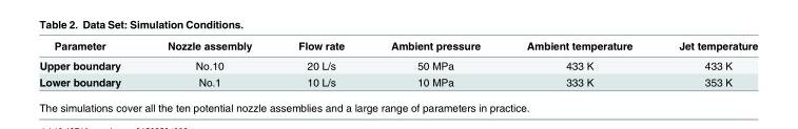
<table><thead><tr><td>Parameter</td><td>Nozzle assembly</td><td>Flow rate</td><td>Ambient pressure</td><td>Ambient temperature</td><td>Jet temperature</td></tr></thead><tbody><tr><td>Upper boundary</td><td>No.10</td><td>20 L/s</td><td>50 MPa</td><td>433 K</td><td>433 K</td></tr><tr><td>Lower boundary</td><td>No.1</td><td>10 L/s</td><td>10 MPa</td><td>333 K</td><td>353 K</td></tr></tbody></table>